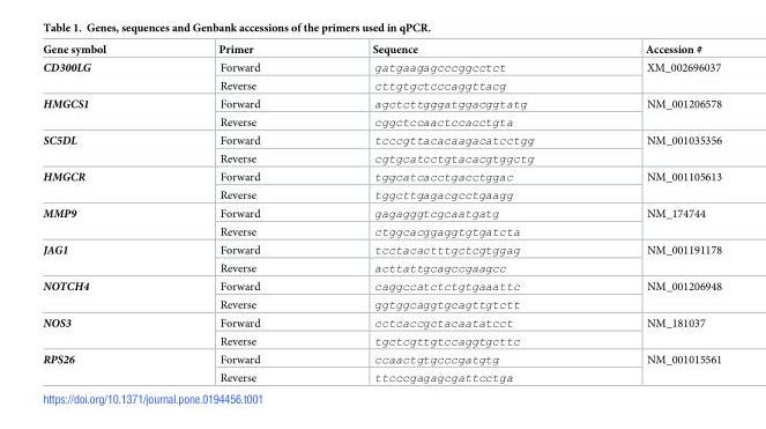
<table><thead><tr><td>Gene symbol</td><td>Primer</td><td>Sequence</td><td>Accession #</td></tr></thead><tbody><tr><td rowspan="2">CD300LG</td><td>Forward</td><td>gatgaagagcccggcctct</td><td rowspan="2">XM_002696037</td></tr><tr><td>Reverse</td><td>cttgtgctcccaggttacg</td></tr><tr><td rowspan="2">HMGCS1</td><td>Forward</td><td>agctcttgggatggacggtatg</td><td rowspan="2">NM_001206578</td></tr><tr><td>Reverse</td><td>cggctccaactccacctgta</td></tr><tr><td rowspan="2">SC5DL</td><td>Forward</td><td>tcccgttacacaagacatcctgg</td><td rowspan="2">NM_001035356</td></tr><tr><td>Reverse</td><td>cgtgcatcctgtacacgtggctg</td></tr><tr><td rowspan="2">HMGCR</td><td>Forward</td><td>tggcatcacctgacctggac</td><td rowspan="2">NM_001105613</td></tr><tr><td>Reverse</td><td>tggcttgagacgcctgaagg</td></tr><tr><td rowspan="2">MMP9</td><td>Forward</td><td>gagagggtcgcaatgatg</td><td rowspan="2">NM_174744</td></tr><tr><td>Reverse</td><td>ctggcacggaggtgtgatcta</td></tr><tr><td rowspan="2">JAG1</td><td>Forward</td><td>tcctacactttgctcgtggag</td><td rowspan="2">NM_001191178</td></tr><tr><td>Reverse</td><td>acttattgcagccgaagcc</td></tr><tr><td rowspan="2">NOTCH4</td><td>Forward</td><td>caggccatctctgtgaaattc</td><td rowspan="2">NM_001206948</td></tr><tr><td>Reverse</td><td>ggtggcaggtgcagttgtctt</td></tr><tr><td rowspan="2">NOS3</td><td>Forward</td><td>cctcaccgctacaatatcct</td><td rowspan="2">NM_181037</td></tr><tr><td>Reverse</td><td>tgctcgttgtccaggtgcttc</td></tr><tr><td rowspan="2">RPS26</td><td>Forward</td><td>ccaactgtgcccgatgtg</td><td rowspan="2">NM_001015561</td></tr><tr><td>Reverse</td><td>ttcccgagagcgattcctga</td></tr></tbody></table>